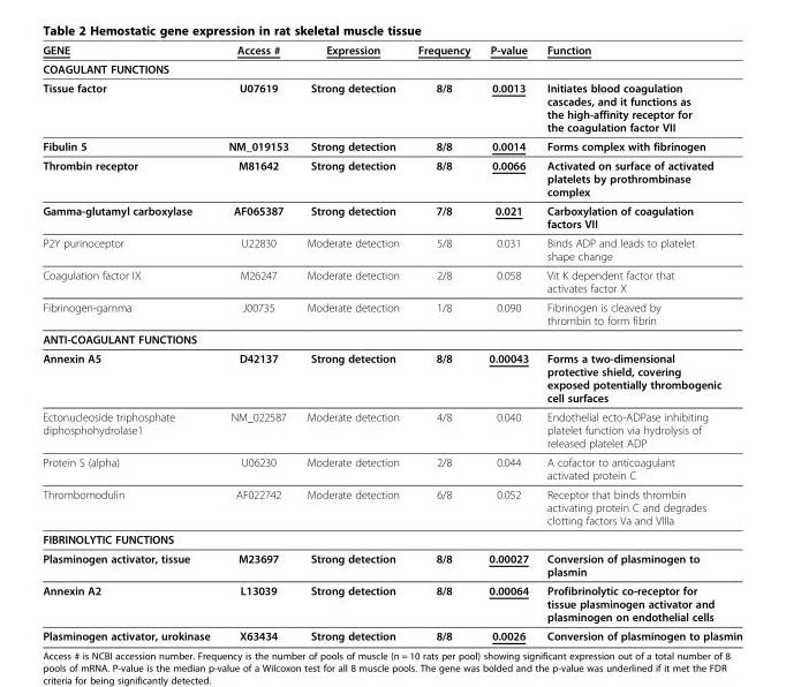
<table><thead><tr><td>GENE</td><td>Access #</td><td>Expression</td><td>Frequency</td><td>P-value</td><td>Function</td></tr></thead><tbody><tr><td colspan="6">COAGULANT FUNCTIONS</td></tr><tr><td>Tissue factor</td><td>U07619</td><td>Strong detection</td><td>8/8</td><td>0.0013</td><td>Initiates blood coagulation cascades, and it functions as the high-affinity receptor for the coagulation factor VII</td></tr><tr><td>Fibulin 5</td><td>NM_019153</td><td>Strong detection</td><td>8/8</td><td>0.0014</td><td>Forms complex with fibrinogen</td></tr><tr><td>Thrombin receptor</td><td>M81642</td><td>Strong detection</td><td>8/8</td><td>0.0066</td><td>Activated on surface of activated platelets by prothrombinase complex</td></tr><tr><td>Gamma-glutamyl carboxylase</td><td>AF065387</td><td>Strong detection</td><td>7/8</td><td>0.021</td><td>Carboxylation of coagulation factors VII</td></tr><tr><td>P2Y purinoceptor</td><td>U22830</td><td>Moderate detection</td><td>5/8</td><td>0.031</td><td>Binds ADP and leads to platelet shape change</td></tr><tr><td>Coagulation factor IX</td><td>M26247</td><td>Moderate detection</td><td>2/8</td><td>0.058</td><td>Vit K dependent factor that activates factor X</td></tr><tr><td>Fibrinogen-gamma</td><td>J00735</td><td>Moderate detection</td><td>1/8</td><td>0.090</td><td>Fibrinogen is cleaved by thrombin to form fibrin</td></tr><tr><td colspan="6">ANTI-COAGULANT FUNCTIONS</td></tr><tr><td>Annexin A5</td><td>D42137</td><td>Strong detection</td><td>8/8</td><td>0.00043</td><td>Forms a two-dimensional protective shield, covering exposed potentially thrombogenic cell surfaces</td></tr><tr><td>Ectonucleoside triphosphate diphosphohydrolase1</td><td>NM_022587</td><td>Moderate detection</td><td>4/8</td><td>0.040</td><td>Endothelial ecto-ADPase inhibiting platelet function via hydrolysis of released platelet ADP</td></tr><tr><td>Protein S (alpha)</td><td>U06230</td><td>Moderate detection</td><td>2/8</td><td>0.044</td><td>A cofactor to anticoagulant activated protein C</td></tr><tr><td>Thrombomodulin</td><td>AF022742</td><td>Moderate detection</td><td>6/8</td><td>0.052</td><td>Receptor that binds thrombin activating protein C and degrades clotting factors Va and VIIIa</td></tr><tr><td colspan="6">FIBRINOLYTIC FUNCTIONS</td></tr><tr><td>Plasminogen activator, tissue</td><td>M23697</td><td>Strong detection</td><td>8/8</td><td>0.00027</td><td>Conversion of plasminogen to plasmin</td></tr><tr><td>Annexin A2</td><td>L13039</td><td>Strong detection</td><td>8/8</td><td>0.00064</td><td>Profibrinolytic co-receptor for tissue plasminogen activator and plasminogen on endothelial cells</td></tr><tr><td>Plasminogen activator, urokinase</td><td>X63434</td><td>Strong detection</td><td>8/8</td><td>0.0026</td><td>Conversion of plasminogen to plasmin</td></tr></tbody></table>